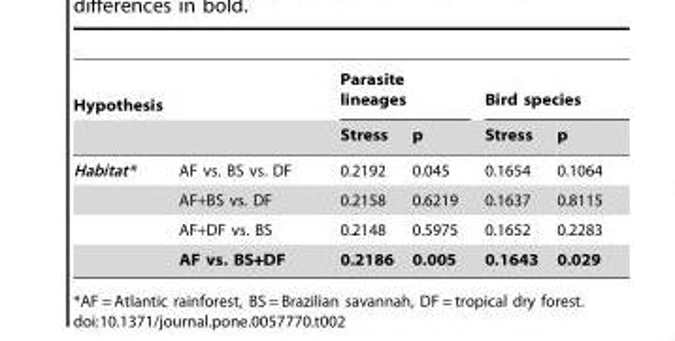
<table><thead><tr><td colspan="2">Hypothesis</td><td colspan="2">Parasite lineages</td><td colspan="2">Bird species</td></tr><tr><td></td><td></td><td>Stress</td><td>p</td><td>Stress</td><td>p</td></tr></thead><tbody><tr><td rowspan="4">Habitat*</td><td>AF vs. BS vs. DF</td><td>0.2192</td><td>0.045</td><td>0.1654</td><td>0.1064</td></tr><tr><td>AF+BS vs. DF</td><td>0.2158</td><td>0.6219</td><td>0.1637</td><td>0.8115</td></tr><tr><td>AF+DF vs. BS</td><td>0.2148</td><td>0.5975</td><td>0.1652</td><td>0.2283</td></tr><tr><td>AF vs. BS+DF</td><td>0.2186</td><td>0.005</td><td>0.1643</td><td>0.029</td></tr></tbody></table>